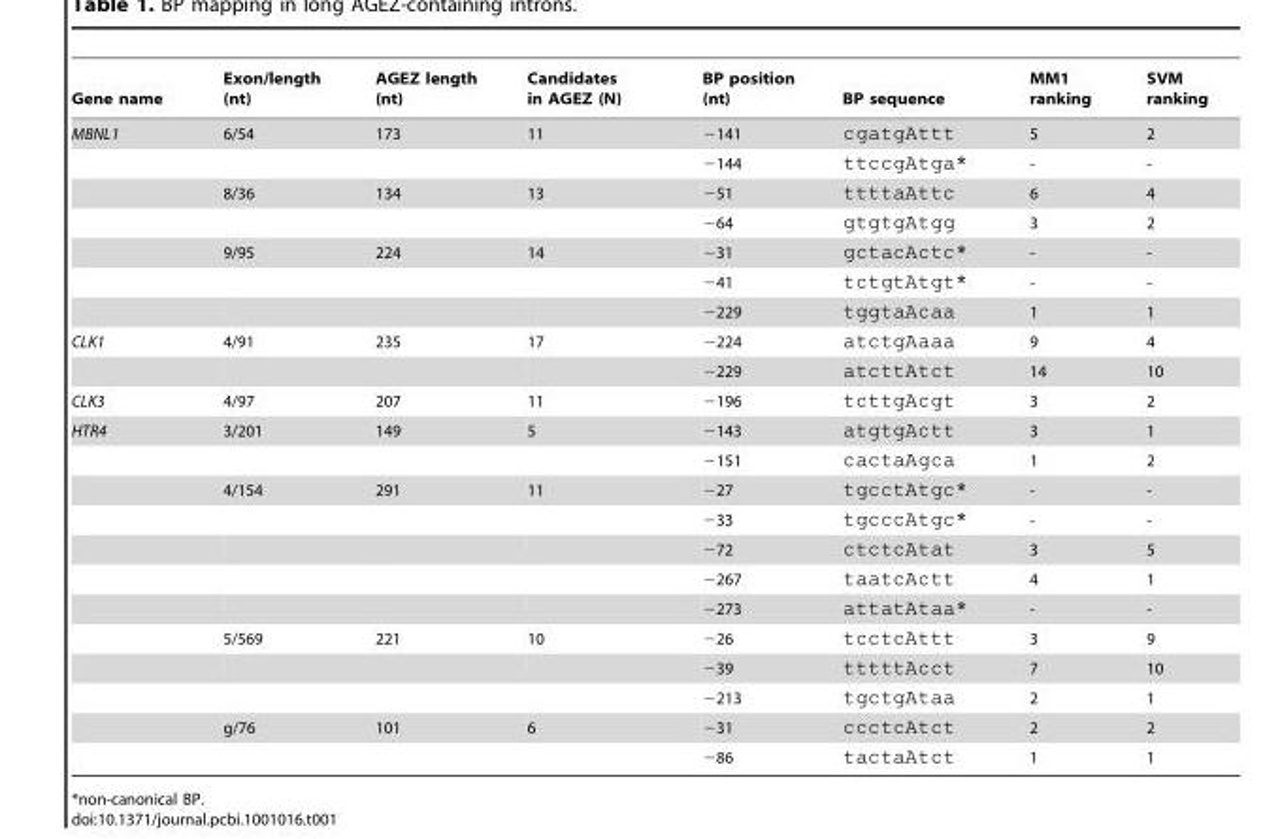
<table><thead><tr><td>Gene name</td><td>Exon/length (nt)</td><td>AGEZ length (nt)</td><td>Candidates in AGEZ (N)</td><td>BP position (nt)</td><td>BP sequence</td><td>MM1 ranking</td><td>SVM ranking</td></tr></thead><tbody><tr><td rowspan="7">MBNL1</td><td>6/54</td><td>173</td><td>11</td><td>−141</td><td>cgatgAttt</td><td>5</td><td>2</td></tr><tr><td></td><td></td><td></td><td>−144</td><td>ttccgAtga*</td><td>-</td><td>-</td></tr><tr><td>8/36</td><td>134</td><td>13</td><td>−51</td><td>ttttaAttc</td><td>6</td><td>4</td></tr><tr><td></td><td></td><td></td><td>−64</td><td>gtgtgAtgg</td><td>3</td><td>2</td></tr><tr><td>9/95</td><td>224</td><td>14</td><td>−31</td><td>gctacActc*</td><td>-</td><td>-</td></tr><tr><td></td><td></td><td></td><td>−41</td><td>tctgtAtgt*</td><td>-</td><td>-</td></tr><tr><td></td><td></td><td></td><td>−229</td><td>tggtaAcaa</td><td>1</td><td>1</td></tr><tr><td rowspan="2">CLK1</td><td>4/91</td><td>235</td><td>17</td><td>−224</td><td>atctgAaaa</td><td>9</td><td>4</td></tr><tr><td></td><td></td><td></td><td>−229</td><td>atcttAtct</td><td>14</td><td>10</td></tr><tr><td>CLK3</td><td>4/97</td><td>207</td><td>11</td><td>−196</td><td>tcttgAcgt</td><td>3</td><td>2</td></tr><tr><td rowspan="12">HTR4</td><td>3/201</td><td>149</td><td>5</td><td>−143</td><td>atgtgActt</td><td>3</td><td>1</td></tr><tr><td></td><td></td><td></td><td>−151</td><td>cactaAgca</td><td>1</td><td>2</td></tr><tr><td>4/154</td><td>291</td><td>11</td><td>−27</td><td>tgcctAtgc*</td><td>-</td><td>-</td></tr><tr><td></td><td></td><td></td><td>−33</td><td>tgcccAtgc*</td><td>-</td><td>-</td></tr><tr><td></td><td></td><td></td><td>−72</td><td>ctctcAtat</td><td>3</td><td>5</td></tr><tr><td></td><td></td><td></td><td>−267</td><td>taatcActt</td><td>4</td><td>1</td></tr><tr><td></td><td></td><td></td><td>−273</td><td>attatAtaa*</td><td>-</td><td>-</td></tr><tr><td>5/569</td><td>221</td><td>10</td><td>−26</td><td>tcctcAttt</td><td>3</td><td>9</td></tr><tr><td></td><td></td><td></td><td>−39</td><td>tttttAcct</td><td>7</td><td>10</td></tr><tr><td></td><td></td><td></td><td>−213</td><td>tgctgAtaa</td><td>2</td><td>1</td></tr><tr><td>g/76</td><td>101</td><td>6</td><td>−31</td><td>ccctcAtct</td><td>2</td><td>2</td></tr><tr><td></td><td></td><td></td><td>−86</td><td>tactaAtct</td><td>1</td><td>1</td></tr></tbody></table>